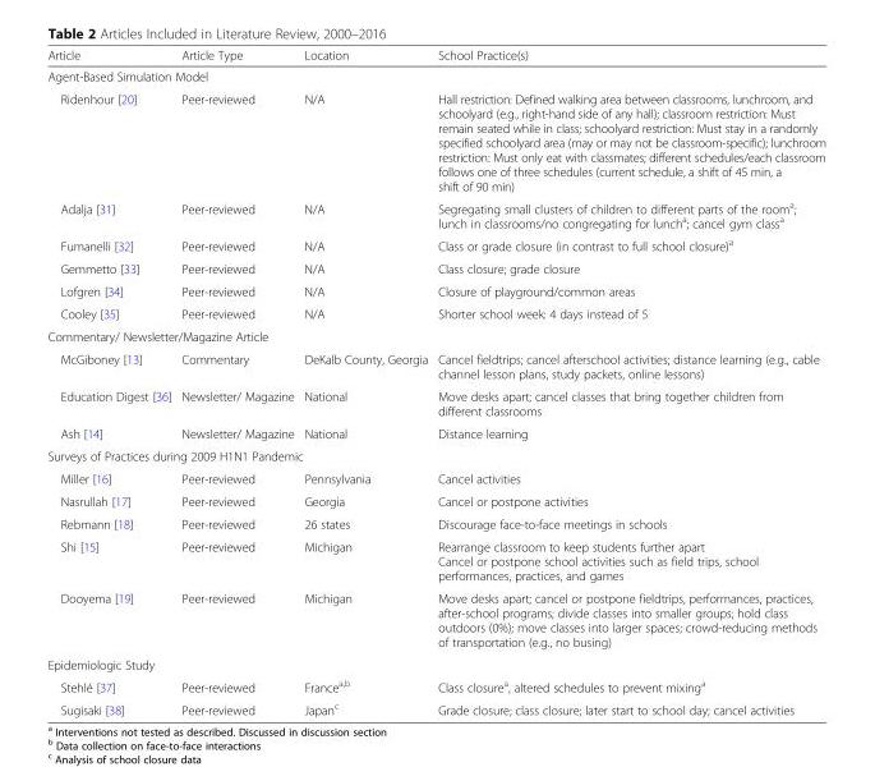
<table><thead><tr><td>Article</td><td>Article Type</td><td>Location</td><td>School Practice(s)</td></tr></thead><tbody><tr><td colspan="4">Agent-Based Simulation Model</td></tr><tr><td>Ridenhour [20]</td><td>Peer-reviewed</td><td>N/A</td><td>Hall restriction: Defined walking area between classrooms, lunchroom, and schoolyard (e.g., right-hand side of any hall); classroom restriction: Must remain seated while in class; schoolyard restriction: Must stay in a randomly specified schoolyard area (may or may not be classroom-specific); lunchroom restriction: Must only eat with classmates; different schedules/each classroom follows one of three schedules (current schedule, a shift of 45 min, a shift of 90 min)</td></tr><tr><td>Adalja [31]</td><td>Peer-reviewed</td><td>N/A</td><td>Segregating small clusters of children to different parts of the room<sup>a</sup>; lunch in classrooms/no congregating for lunch<sup>a</sup>; cancel gym class<sup>a</sup></td></tr><tr><td>Fumanelli [32]</td><td>Peer-reviewed</td><td>N/A</td><td>Class or grade closure (in contrast to full school closure)<sup>a</sup></td></tr><tr><td>Gemmetto [33]</td><td>Peer-reviewed</td><td>N/A</td><td>Class closure; grade closure</td></tr><tr><td>Lofgren [34]</td><td>Peer-reviewed</td><td>N/A</td><td>Closure of playground/common areas</td></tr><tr><td>Cooley [35]</td><td>Peer-reviewed</td><td>N/A</td><td>Shorter school week: 4 days instead of 5</td></tr><tr><td colspan="4">Commentary/ Newsletter/Magazine Article</td></tr><tr><td>McGiboney [13]</td><td>Commentary</td><td>DeKalb County, Georgia</td><td>Cancel fieldtrips; cancel afterschool activities; distance learning (e.g., cable channel lesson plans, study packets, online lessons)</td></tr><tr><td>Education Digest [36]</td><td>Newsletter/ Magazine</td><td>National</td><td>Move desks apart; cancel classes that bring together children from different classrooms</td></tr><tr><td>Ash [14]</td><td>Newsletter/ Magazine</td><td>National</td><td>Distance learning</td></tr><tr><td colspan="4">Surveys of Practices during 2009 H1N1 Pandemic</td></tr><tr><td>Miller [16]</td><td>Peer-reviewed</td><td>Pennsylvania</td><td>Cancel activities</td></tr><tr><td>Nasrullah [17]</td><td>Peer-reviewed</td><td>Georgia</td><td>Cancel or postpone activities</td></tr><tr><td>Rebmann [18]</td><td>Peer-reviewed</td><td>26 states</td><td>Discourage face-to-face meetings in schools</td></tr><tr><td>Shi [15]</td><td>Peer-reviewed</td><td>Michigan</td><td>Rearrange classroom to keep students further apart Cancel or postpone school activities such as field trips, school performances, practices, and games</td></tr><tr><td>Dooyema [19]</td><td>Peer-reviewed</td><td>Michigan</td><td>Move desks apart; cancel or postpone fieldtrips, performances, practices, after-school programs; divide classes into smaller groups; hold class outdoors (0%); move classes into larger spaces; crowd-reducing methods of transportation (e.g., no busing)</td></tr><tr><td colspan="4">Epidemiologic Study</td></tr><tr><td>Stehlé [37]</td><td>Peer-reviewed</td><td>France<sup>a,b</sup></td><td>Class closure<sup>a</sup>, altered schedules to prevent mixing<sup>a</sup></td></tr><tr><td>Sugisaki [38]</td><td>Peer-reviewed</td><td>Japan<sup>c</sup></td><td>Grade closure; class closure; later start to school day; cancel activities</td></tr></tbody></table>